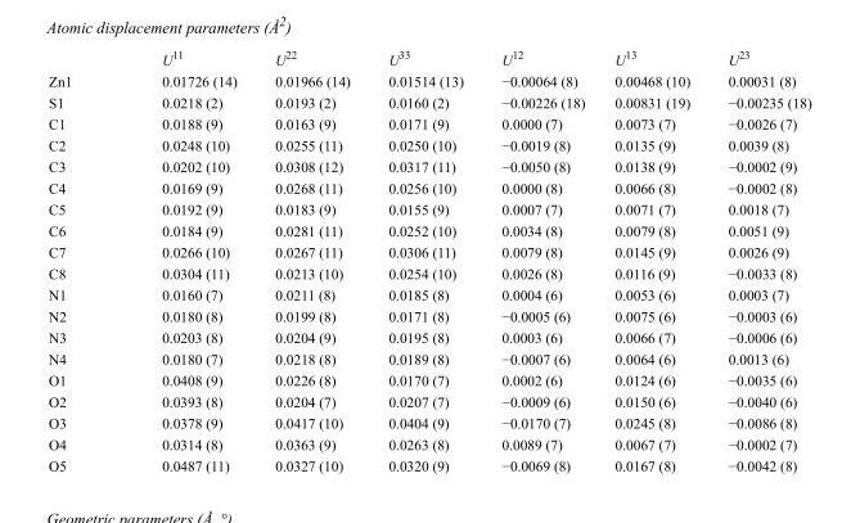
<table><thead><tr><td></td><td>U<sup>11</sup></td><td>U<sup>22</sup></td><td>U<sup>33</sup></td><td>U<sup>12</sup></td><td>U<sup>13</sup></td><td>U<sup>23</sup></td></tr></thead><tbody><tr><td>Zn1</td><td>0.01726 (14)</td><td>0.01966 (14)</td><td>0.01514 (13)</td><td>−0.00064 (8)</td><td>0.00468 (10)</td><td>0.00031 (8)</td></tr><tr><td>S1</td><td>0.0218 (2)</td><td>0.0193 (2)</td><td>0.0160 (2)</td><td>−0.00226 (18)</td><td>0.00831 (19)</td><td>−0.00235 (18)</td></tr><tr><td>C1</td><td>0.0188 (9)</td><td>0.0163 (9)</td><td>0.0171 (9)</td><td>0.0000 (7)</td><td>0.0073 (7)</td><td>−0.0026 (7)</td></tr><tr><td>C2</td><td>0.0248 (10)</td><td>0.0255 (11)</td><td>0.0250 (10)</td><td>−0.0019 (8)</td><td>0.0135 (9)</td><td>0.0039 (8)</td></tr><tr><td>C3</td><td>0.0202 (10)</td><td>0.0308 (12)</td><td>0.0317 (11)</td><td>−0.0050 (8)</td><td>0.0138 (9)</td><td>−0.0002 (9)</td></tr><tr><td>C4</td><td>0.0169 (9)</td><td>0.0268 (11)</td><td>0.0256 (10)</td><td>0.0000 (8)</td><td>0.0066 (8)</td><td>−0.0002 (8)</td></tr><tr><td>C5</td><td>0.0192 (9)</td><td>0.0183 (9)</td><td>0.0155 (9)</td><td>0.0007 (7)</td><td>0.0071 (7)</td><td>0.0018 (7)</td></tr><tr><td>C6</td><td>0.0184 (9)</td><td>0.0281 (11)</td><td>0.0252 (10)</td><td>0.0034 (8)</td><td>0.0079 (8)</td><td>0.0051 (9)</td></tr><tr><td>C7</td><td>0.0266 (10)</td><td>0.0267 (11)</td><td>0.0306 (11)</td><td>0.0079 (8)</td><td>0.0145 (9)</td><td>0.0026 (9)</td></tr><tr><td>C8</td><td>0.0304 (11)</td><td>0.0213 (10)</td><td>0.0254 (10)</td><td>0.0026 (8)</td><td>0.0116 (9)</td><td>−0.0033 (8)</td></tr><tr><td>N1</td><td>0.0160 (7)</td><td>0.0211 (8)</td><td>0.0185 (8)</td><td>0.0004 (6)</td><td>0.0053 (6)</td><td>0.0003 (7)</td></tr><tr><td>N2</td><td>0.0180 (8)</td><td>0.0199 (8)</td><td>0.0171 (8)</td><td>−0.0005 (6)</td><td>0.0075 (6)</td><td>−0.0003 (6)</td></tr><tr><td>N3</td><td>0.0203 (8)</td><td>0.0204 (9)</td><td>0.0195 (8)</td><td>0.0003 (6)</td><td>0.0066 (7)</td><td>−0.0006 (6)</td></tr><tr><td>N4</td><td>0.0180 (7)</td><td>0.0218 (8)</td><td>0.0189 (8)</td><td>−0.0007 (6)</td><td>0.0064 (6)</td><td>0.0013 (6)</td></tr><tr><td>O1</td><td>0.0408 (9)</td><td>0.0226 (8)</td><td>0.0170 (7)</td><td>0.0002 (6)</td><td>0.0124 (6)</td><td>−0.0035 (6)</td></tr><tr><td>O2</td><td>0.0393 (8)</td><td>0.0204 (7)</td><td>0.0207 (7)</td><td>−0.0009 (6)</td><td>0.0150 (6)</td><td>−0.0040 (6)</td></tr><tr><td>O3</td><td>0.0378 (9)</td><td>0.0417 (10)</td><td>0.0404 (9)</td><td>−0.0170 (7)</td><td>0.0245 (8)</td><td>−0.0086 (8)</td></tr><tr><td>O4</td><td>0.0314 (8)</td><td>0.0363 (9)</td><td>0.0263 (8)</td><td>0.0089 (7)</td><td>0.0067 (7)</td><td>−0.0002 (7)</td></tr><tr><td>O5</td><td>0.0487 (11)</td><td>0.0327 (10)</td><td>0.0320 (9)</td><td>−0.0069 (8)</td><td>0.0167 (8)</td><td>−0.0042 (8)</td></tr></tbody></table>